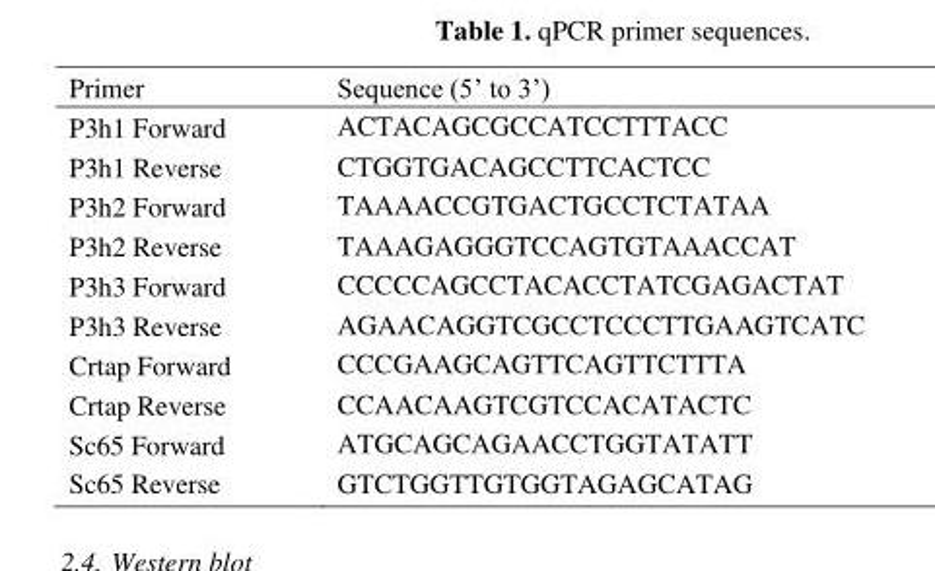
<table><thead><tr><td>Primer</td><td>Sequence (5’ to 3’)</td></tr></thead><tbody><tr><td>P3h1 Forward</td><td>ACTACAGCGCCATCCTTTACC</td></tr><tr><td>P3h1 Reverse</td><td>CTGGTGACAGCCTTCACTCC</td></tr><tr><td>P3h2 Forward</td><td>TAAAACCGTGACTGCCTCTATAA</td></tr><tr><td>P3h2 Reverse</td><td>TAAAGAGGGTCCAGTGTAAACCAT</td></tr><tr><td>P3h3 Forward</td><td>CCCCCAGCCTACACCTATCGAGACTAT</td></tr><tr><td>P3h3 Reverse</td><td>AGAACAGGTCGCCTCCCTTGAAGTCATC</td></tr><tr><td>Crtap Forward</td><td>CCCGAAGCAGTTCAGTTCTTTA</td></tr><tr><td>Crtap Reverse</td><td>CCAACAAGTCGTCCACATACTC</td></tr><tr><td>Sc65 Forward</td><td>ATGCAGCAGAACCTGGTATATT</td></tr><tr><td>Sc65 Reverse</td><td>GTCTGGTTGTGGTAGAGCATAG</td></tr></tbody></table>